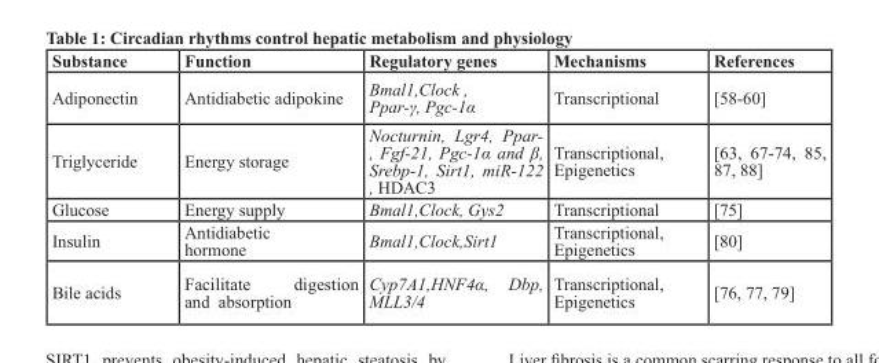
<table><thead><tr><td>Substance</td><td>Function</td><td>Regulatory genes</td><td>Mechanisms</td><td>References</td></tr></thead><tbody><tr><td>Adiponectin</td><td>Antidiabetic adipokine</td><td>Bmal1,Clock , Ppar-γ, Pgc-1α</td><td>Transcriptional</td><td>[58-60]</td></tr><tr><td>Triglyceride</td><td>Energy storage</td><td>Nocturnin, Lgr4, Ppar- , Fgf-21, Pgc-1α and β, Srebp-1, Sirt1, miR-122 , HDAC3</td><td>Transcriptional, Epigenetics</td><td>[63, 67-74, 85, 87, 88]</td></tr><tr><td>Glucose</td><td>Energy supply</td><td>Bmal1,Clock, Gys2</td><td>Transcriptional</td><td>[75]</td></tr><tr><td>Insulin</td><td>Antidiabetic hormone</td><td>Bmal1,Clock,Sirt1</td><td>Transcriptional, Epigenetics</td><td>[80]</td></tr><tr><td>Bile acids</td><td>Facilitate digestion and absorption</td><td>Cyp7A1,HNF4α, Dbp, MLL3/4</td><td>Transcriptional, Epigenetics</td><td>[76, 77, 79]</td></tr></tbody></table>